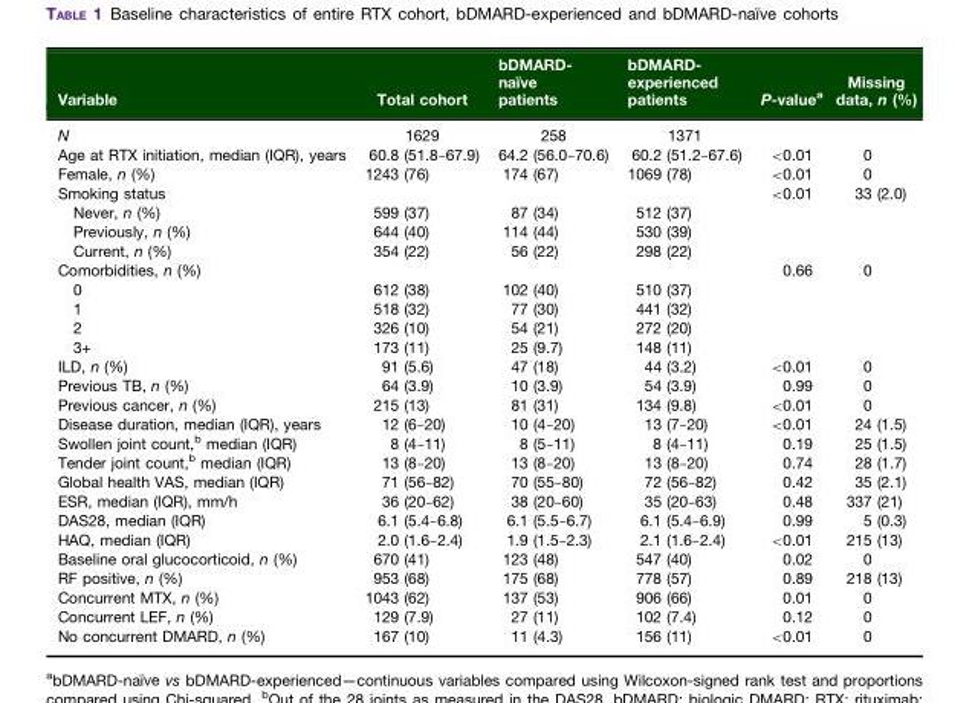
<table><thead><tr><td>Variable</td><td>Total cohort</td><td>bDMARD- naı¨ve patients</td><td>bDMARD- experienced patients</td><td>P-value<sup>a</sup></td><td>Missing data, n (%)</td></tr></thead><tbody><tr><td>N</td><td>1629</td><td>258</td><td>1371</td><td></td><td></td></tr><tr><td>Age at RTX initiation, median (IQR), years</td><td>60.8 (51.8–67.9)</td><td>64.2 (56.0–70.6)</td><td>60.2 (51.2–67.6)</td><td>&lt;0.01</td><td>0</td></tr><tr><td>Female, n (%)</td><td>1243 (76)</td><td>174 (67)</td><td>1069 (78)</td><td>&lt;0.01</td><td>0</td></tr><tr><td>Smoking status</td><td></td><td></td><td></td><td>&lt;0.01</td><td>33 (2.0)</td></tr><tr><td>Never, n (%)</td><td>599 (37)</td><td>87 (34)</td><td>512 (37)</td><td></td><td></td></tr><tr><td>Previously, n (%)</td><td>644 (40)</td><td>114 (44)</td><td>530 (39)</td><td></td><td></td></tr><tr><td>Current, n (%)</td><td>354 (22)</td><td>56 (22)</td><td>298 (22)</td><td></td><td></td></tr><tr><td>Comorbidities, n (%)</td><td></td><td></td><td></td><td>0.66</td><td>0</td></tr><tr><td>0</td><td>612 (38)</td><td>102 (40)</td><td>510 (37)</td><td></td><td></td></tr><tr><td>1</td><td>518 (32)</td><td>77 (30)</td><td>441 (32)</td><td></td><td></td></tr><tr><td>2</td><td>326 (10)</td><td>54 (21)</td><td>272 (20)</td><td></td><td></td></tr><tr><td>3+</td><td>173 (11)</td><td>25 (9.7)</td><td>148 (11)</td><td></td><td></td></tr><tr><td>ILD, n (%)</td><td>91 (5.6)</td><td>47 (18)</td><td>44 (3.2)</td><td>&lt;0.01</td><td>0</td></tr><tr><td>Previous TB, n (%)</td><td>64 (3.9)</td><td>10 (3.9)</td><td>54 (3.9)</td><td>0.99</td><td>0</td></tr><tr><td>Previous cancer, n (%)</td><td>215 (13)</td><td>81 (31)</td><td>134 (9.8)</td><td>&lt;0.01</td><td>0</td></tr><tr><td>Disease duration, median (IQR), years</td><td>12 (6–20)</td><td>10 (4–20)</td><td>13 (7–20)</td><td>&lt;0.01</td><td>24 (1.5)</td></tr><tr><td>Swollen joint count,<sup>b</sup> median (IQR)</td><td>8 (4–11)</td><td>8 (5–11)</td><td>8 (4–11)</td><td>0.19</td><td>25 (1.5)</td></tr><tr><td>Tender joint count,<sup>b</sup> median (IQR)</td><td>13 (8–20)</td><td>13 (8–20)</td><td>13 (8–20)</td><td>0.74</td><td>28 (1.7)</td></tr><tr><td>Global health VAS, median (IQR)</td><td>71 (56–82)</td><td>70 (55–80)</td><td>72 (56–82)</td><td>0.42</td><td>35 (2.1)</td></tr><tr><td>ESR, median (IQR), mm/h</td><td>36 (20–62)</td><td>38 (20–60)</td><td>35 (20–63)</td><td>0.48</td><td>337 (21)</td></tr><tr><td>DAS28, median (IQR)</td><td>6.1 (5.4–6.8)</td><td>6.1 (5.5–6.7)</td><td>6.1 (5.4–6.9)</td><td>0.99</td><td>5 (0.3)</td></tr><tr><td>HAQ, median (IQR)</td><td>2.0 (1.6–2.4)</td><td>1.9 (1.5–2.3)</td><td>2.1 (1.6–2.4)</td><td>&lt;0.01</td><td>215 (13)</td></tr><tr><td>Baseline oral glucocorticoid, n (%)</td><td>670 (41)</td><td>123 (48)</td><td>547 (40)</td><td>0.02</td><td>0</td></tr><tr><td>RF positive, n (%)</td><td>953 (68)</td><td>175 (68)</td><td>778 (57)</td><td>0.89</td><td>218 (13)</td></tr><tr><td>Concurrent MTX, n (%)</td><td>1043 (62)</td><td>137 (53)</td><td>906 (66)</td><td>0.01</td><td>0</td></tr><tr><td>Concurrent LEF, n (%)</td><td>129 (7.9)</td><td>27 (11)</td><td>102 (7.4)</td><td>0.12</td><td>0</td></tr><tr><td>No concurrent DMARD, n (%)</td><td>167 (10)</td><td>11 (4.3)</td><td>156 (11)</td><td>&lt;0.01</td><td>0</td></tr></tbody></table>